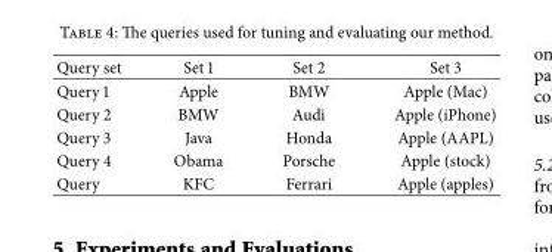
<table><thead><tr><td>Query set</td><td>Set 1</td><td>Set 2</td><td>Set 3</td></tr></thead><tbody><tr><td>Query 1</td><td>Apple</td><td>BMW</td><td>Apple (Mac)</td></tr><tr><td>Query 2</td><td>BMW</td><td>Audi</td><td>Apple (iPhone)</td></tr><tr><td>Query 3</td><td>Java</td><td>Honda</td><td>Apple (AAPL)</td></tr><tr><td>Query 4</td><td>Obama</td><td>Porsche</td><td>Apple (stock)</td></tr><tr><td>Query</td><td>KFC</td><td>Ferrari</td><td>Apple (apples)</td></tr></tbody></table>